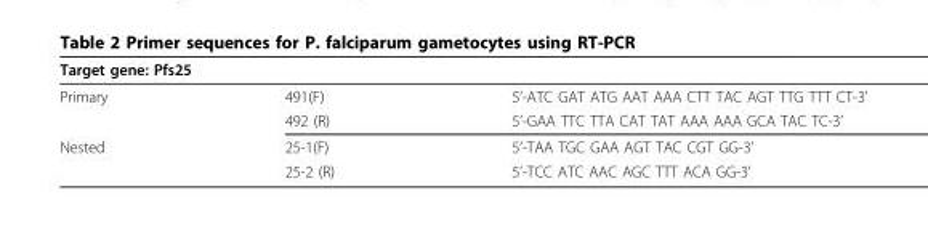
<table><thead><tr><td colspan="3">Target gene: Pfs25</td></tr><tr><td>Primary</td><td>491(F)</td><td>5’-ATC GAT ATG AAT AAA CTT TAC AGT TTG TTT CT-3’</td></tr></thead><tbody><tr><td></td><td>492 (R)</td><td>5’-GAA TTC TTA CAT TAT AAA AAA GCA TAC TC-3’</td></tr><tr><td rowspan="2">Nested</td><td>25-1(F)</td><td>5’-TAA TGC GAA AGT TAC CGT GG-3’</td></tr><tr><td>25-2 (R)</td><td>5’-TCC ATC AAC AGC TTT ACA GG-3’</td></tr></tbody></table>